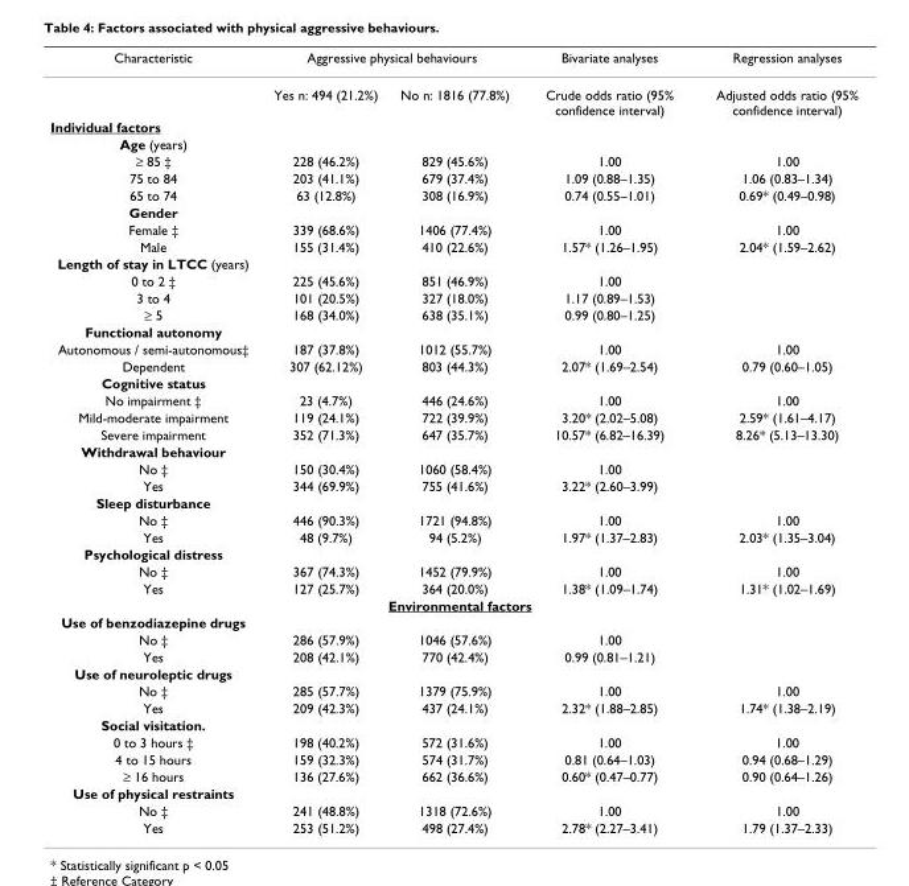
<table><thead><tr><td rowspan="2">Characteristic</td><td colspan="2">Aggressive physical behaviours</td><td rowspan="2">Bivariate analyses Crude odds ratio (95% confidence interval)</td><td rowspan="2">Regression analyses Adjusted odds ratio (95% confidence interval)</td></tr><tr><td>Yes n: 494 (21.2%)</td><td>No n: 1816 (77.8%)</td></tr></thead><tbody><tr><td colspan="5">Individual factors</td></tr><tr><td colspan="5">Age (years)</td></tr><tr><td>≥ 85 ‡</td><td>228 (46.2%)</td><td>829 (45.6%)</td><td>1.00</td><td>1.00</td></tr><tr><td>75 to 84</td><td>203 (41.1%)</td><td>679 (37.4%)</td><td>1.09 (0.88–1.35)</td><td>1.06 (0.83–1.34)</td></tr><tr><td>65 to 74</td><td>63 (12.8%)</td><td>308 (16.9%)</td><td>0.74 (0.55–1.01)</td><td>0.69* (0.49–0.98)</td></tr><tr><td colspan="5">Gender</td></tr><tr><td>Female ‡</td><td>339 (68.6%)</td><td>1406 (77.4%)</td><td>1.00</td><td>1.00</td></tr><tr><td>Male</td><td>155 (31.4%)</td><td>410 (22.6%)</td><td>1.57* (1.26–1.95)</td><td>2.04* (1.59–2.62)</td></tr><tr><td colspan="5">Length of stay in LTCC (years)</td></tr><tr><td>0 to 2 ‡</td><td>225 (45.6%)</td><td>851 (46.9%)</td><td>1.00</td><td></td></tr><tr><td>3 to 4</td><td>101 (20.5%)</td><td>327 (18.0%)</td><td>1.17 (0.89–1.53)</td><td></td></tr><tr><td>≥ 5</td><td>168 (34.0%)</td><td>638 (35.1%)</td><td>0.99 (0.80–1.25)</td><td></td></tr><tr><td colspan="5">Functional autonomy</td></tr><tr><td>Autonomous / semi-autonomous‡</td><td>187 (37.8%)</td><td>1012 (55.7%)</td><td>1.00</td><td>1.00</td></tr><tr><td>Dependent</td><td>307 (62.12%)</td><td>803 (44.3%)</td><td>2.07* (1.69–2.54)</td><td>0.79 (0.60–1.05)</td></tr><tr><td colspan="5">Cognitive status</td></tr><tr><td>No impairment ‡</td><td>23 (4.7%)</td><td>446 (24.6%)</td><td>1.00</td><td>1.00</td></tr><tr><td>Mild-moderate impairment</td><td>119 (24.1%)</td><td>722 (39.9%)</td><td>3.20* (2.02–5.08)</td><td>2.59* (1.61–4.17)</td></tr><tr><td>Severe impairment</td><td>352 (71.3%)</td><td>647 (35.7%)</td><td>10.57* (6.82–16.39)</td><td>8.26* (5.13–13.30)</td></tr><tr><td colspan="5">Withdrawal behaviour</td></tr><tr><td>No ‡</td><td>150 (30.4%)</td><td>1060 (58.4%)</td><td>1.00</td><td></td></tr><tr><td>Yes</td><td>344 (69.9%)</td><td>755 (41.6%)</td><td>3.22* (2.60–3.99)</td><td></td></tr><tr><td colspan="5">Sleep disturbance</td></tr><tr><td>No ‡</td><td>446 (90.3%)</td><td>1721 (94.8%)</td><td>1.00</td><td>1.00</td></tr><tr><td>Yes</td><td>48 (9.7%)</td><td>94 (5.2%)</td><td>1.97* (1.37–2.83)</td><td>2.03* (1.35–3.04)</td></tr><tr><td colspan="5">Psychological distress</td></tr><tr><td>No ‡</td><td>367 (74.3%)</td><td>1452 (79.9%)</td><td>1.00</td><td>1.00</td></tr><tr><td>Yes</td><td>127 (25.7%)</td><td>364 (20.0%)</td><td>1.38* (1.09–1.74)</td><td>1.31* (1.02–1.69)</td></tr><tr><td colspan="5">Environmental factors</td></tr><tr><td colspan="5">Use of benzodiazepine drugs</td></tr><tr><td>No ‡</td><td>286 (57.9%)</td><td>1046 (57.6%)</td><td>1.00</td><td></td></tr><tr><td>Yes</td><td>208 (42.1%)</td><td>770 (42.4%)</td><td>0.99 (0.81–1.21)</td><td></td></tr><tr><td colspan="5">Use of neuroleptic drugs</td></tr><tr><td>No ‡</td><td>285 (57.7%)</td><td>1379 (75.9%)</td><td>1.00</td><td>1.00</td></tr><tr><td>Yes</td><td>209 (42.3%)</td><td>437 (24.1%)</td><td>2.32* (1.88–2.85)</td><td>1.74* (1.38–2.19)</td></tr><tr><td colspan="5">Social visitation.</td></tr><tr><td>0 to 3 hours ‡</td><td>198 (40.2%)</td><td>572 (31.6%)</td><td>1.00</td><td>1.00</td></tr><tr><td>4 to 15 hours</td><td>159 (32.3%)</td><td>574 (31.7%)</td><td>0.81 (0.64–1.03)</td><td>0.94 (0.68–1.29)</td></tr><tr><td>≥ 16 hours</td><td>136 (27.6%)</td><td>662 (36.6%)</td><td>0.60* (0.47–0.77)</td><td>0.90 (0.64–1.26)</td></tr><tr><td colspan="5">Use of physical restraints</td></tr><tr><td>No ‡</td><td>241 (48.8%)</td><td>1318 (72.6%)</td><td>1.00</td><td>1.00</td></tr><tr><td>Yes</td><td>253 (51.2%)</td><td>498 (27.4%)</td><td>2.78* (2.27–3.41)</td><td>1.79 (1.37–2.33)</td></tr></tbody></table>